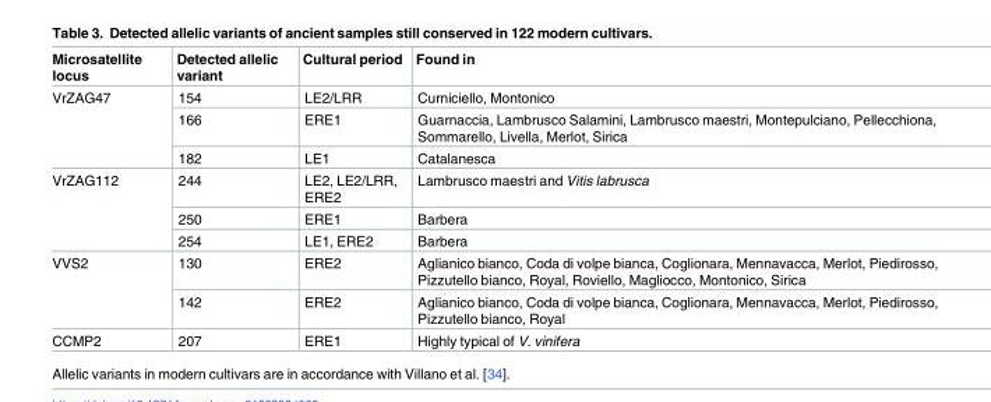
<table><thead><tr><td>Microsatellite locus</td><td>Detected allelic variant</td><td>Cultural period</td><td>Found in</td></tr></thead><tbody><tr><td rowspan="3">VrZAG47</td><td>154</td><td>LE2/LRR</td><td>Curniciello, Montonico</td></tr><tr><td>166</td><td>ERE1</td><td>Guarnaccia, Lambrusco Salamini, Lambrusco maestri, Montepulciano, Pellecchiona, Sommarello, Livella, Merlot, Sirica</td></tr><tr><td>182</td><td>LE1</td><td>Catalanesca</td></tr><tr><td rowspan="3">VrZAG112</td><td>244</td><td>LE2, LE2/LRR, ERE2</td><td>Lambrusco maestri and Vitis labrusca</td></tr><tr><td>250</td><td>ERE1</td><td>Barbera</td></tr><tr><td>254</td><td>LE1, ERE2</td><td>Barbera</td></tr><tr><td rowspan="2">VVS2</td><td>130</td><td>ERE2</td><td>Aglianico bianco, Coda di volpe bianca, Coglionara, Mennavacca, Merlot, Piedirosso, Pizzutello bianco, Royal, Roviello, Magliocco, Montonico, Sirica</td></tr><tr><td>142</td><td>ERE2</td><td>Aglianico bianco, Coda di volpe bianca, Coglionara, Mennavacca, Merlot, Piedirosso, Pizzutello bianco, Royal</td></tr><tr><td>CCMP2</td><td>207</td><td>ERE1</td><td>Highly typical of V. vinifera</td></tr></tbody></table>